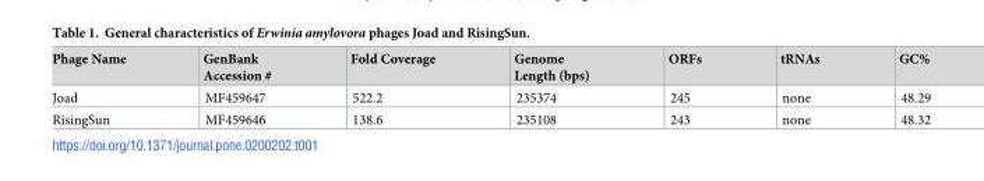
<table><thead><tr><td>Phage Name</td><td>GenBank Accession #</td><td>Fold Coverage</td><td>Genome Length (bps)</td><td>ORFs</td><td>tRNAs</td><td>GC%</td></tr></thead><tbody><tr><td>Joad</td><td>MF459647</td><td>522.2</td><td>235374</td><td>245</td><td>none</td><td>48.29</td></tr><tr><td>RisingSun</td><td>MF459646</td><td>138.6</td><td>235108</td><td>243</td><td>none</td><td>48.32</td></tr></tbody></table>